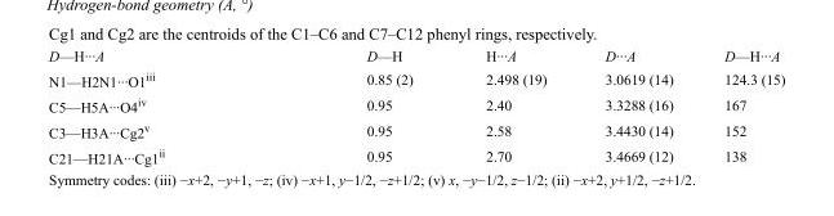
<table><tbody><tr><td>D—H···A</td><td>D—H</td><td>H···A</td><td>D···A</td><td>D—H···A</td></tr><tr><td>N1—H2N1···O1<sup>iii</sup></td><td>0.85 (2)</td><td>2.498 (19)</td><td>3.0619 (14)</td><td>124.3 (15)</td></tr><tr><td>C5—H5A···O4<sup>iv</sup></td><td>0.95</td><td>2.40</td><td>3.3288 (16)</td><td>167</td></tr><tr><td>C3—H3A···Cg2<sup>v</sup></td><td>0.95</td><td>2.58</td><td>3.4430 (14)</td><td>152</td></tr><tr><td>C21—H21A···Cg1<sup>ii</sup></td><td>0.95</td><td>2.70</td><td>3.4669 (12)</td><td>138</td></tr></tbody></table>